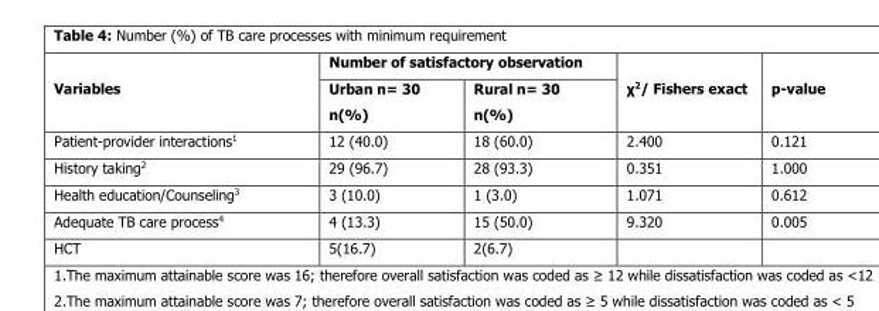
<table><thead><tr><td rowspan="2">Variables</td><td colspan="2">Number of satisfactory observation</td><td rowspan="2">χ<sup>2</sup>/ Fishers exact</td><td rowspan="2">p-value</td></tr><tr><td>Urban n= 30 n(%)</td><td>Rural n= 30 n(%)</td></tr></thead><tbody><tr><td>Patient-provider interactions<sup>1</sup></td><td>12 (40.0)</td><td>18 (60.0)</td><td>2.400</td><td>0.121</td></tr><tr><td>History taking<sup>2</sup></td><td>29 (96.7)</td><td>28 (93.3)</td><td>0.351</td><td>1.000</td></tr><tr><td>Health education/Counseling<sup>3</sup></td><td>3 (10.0)</td><td>1 (3.0)</td><td>1.071</td><td>0.612</td></tr><tr><td>Adequate TB care process<sup>4</sup></td><td>4 (13.3)</td><td>15 (50.0)</td><td>9.320</td><td>0.005</td></tr><tr><td>HCT</td><td>5(16.7)</td><td>2(6.7)</td><td></td><td></td></tr></tbody></table>